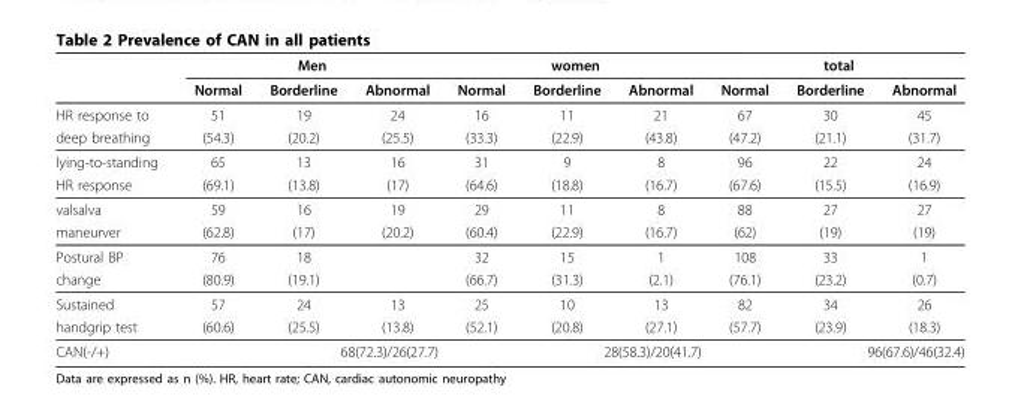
<table><thead><tr><td rowspan="2"></td><td colspan="3">Men</td><td colspan="3">women</td><td colspan="3">total</td></tr><tr><td>Normal</td><td>Borderline</td><td>Abnormal</td><td>Normal</td><td>Borderline</td><td>Abnormal</td><td>Normal</td><td>Borderline</td><td>Abnormal</td></tr></thead><tbody><tr><td>HR response to</td><td>51</td><td>19</td><td>24</td><td>16</td><td>11</td><td>21</td><td>67</td><td>30</td><td>45</td></tr><tr><td>deep breathing</td><td>(54.3)</td><td>(20.2)</td><td>(25.5)</td><td>(33.3)</td><td>(22.9)</td><td>(43.8)</td><td>(47.2)</td><td>(21.1)</td><td>(31.7)</td></tr><tr><td>lying-to-standing</td><td>65</td><td>13</td><td>16</td><td>31</td><td>9</td><td>8</td><td>96</td><td>22</td><td>24</td></tr><tr><td>HR response</td><td>(69.1)</td><td>(13.8)</td><td>(17)</td><td>(64.6)</td><td>(18.8)</td><td>(16.7)</td><td>(67.6)</td><td>(15.5)</td><td>(16.9)</td></tr><tr><td>valsalva</td><td>59</td><td>16</td><td>19</td><td>29</td><td>11</td><td>8</td><td>88</td><td>27</td><td>27</td></tr><tr><td>maneurver</td><td>(62.8)</td><td>(17)</td><td>(20.2)</td><td>(60.4)</td><td>(22.9)</td><td>(16.7)</td><td>(62)</td><td>(19)</td><td>(19)</td></tr><tr><td>Postural BP</td><td>76</td><td>18</td><td></td><td>32</td><td>15</td><td>1</td><td>108</td><td>33</td><td>1</td></tr><tr><td>change</td><td>(80.9)</td><td>(19.1)</td><td></td><td>(66.7)</td><td>(31.3)</td><td>(2.1)</td><td>(76.1)</td><td>(23.2)</td><td>(0.7)</td></tr><tr><td>Sustained</td><td>57</td><td>24</td><td>13</td><td>25</td><td>10</td><td>13</td><td>82</td><td>34</td><td>26</td></tr><tr><td>handgrip test</td><td>(60.6)</td><td>(25.5)</td><td>(13.8)</td><td>(52.1)</td><td>(20.8)</td><td>(27.1)</td><td>(57.7)</td><td>(23.9)</td><td>(18.3)</td></tr><tr><td>CAN(-/+)</td><td colspan="3">68(72.3)/26(27.7)</td><td colspan="3">28(58.3)/20(41.7)</td><td colspan="3">96(67.6)/46(32.4)</td></tr></tbody></table>